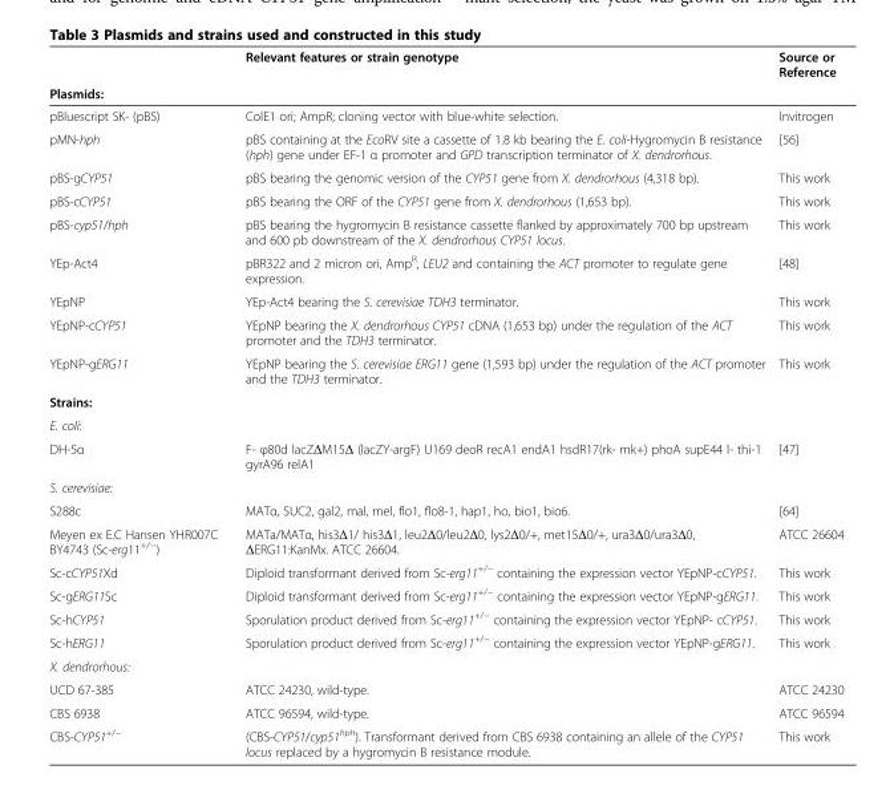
<table><thead><tr><td rowspan="2">Plasmids:</td><td rowspan="2">Relevant features or strain genotype</td><td rowspan="2">Source or Reference</td></tr><tr></tr></thead><tbody><tr><td>pBluescript SK- (pBS)</td><td>ColE1 ori; AmpR; cloning vector with blue-white selection.</td><td>Invitrogen</td></tr><tr><td>pMN-hph</td><td>pBS containing at the EcoRV site a cassette of 1.8 kb bearing the E. coli-Hygromycin B resistance (hph) gene under EF-1 α promoter and GPD transcription terminator of X. dendrorhous.</td><td>[56]</td></tr><tr><td>pBS-gCYP51</td><td>pBS bearing the genomic version of the CYP51 gene from X. dendrorhous (4,318 bp).</td><td>This work</td></tr><tr><td>pBS-cCYP51</td><td>pBS bearing the ORF of the CYP51 gene from X. dendrorhous (1,653 bp).</td><td>This work</td></tr><tr><td>pBS-cyp51/hph</td><td>pBS bearing the hygromycin B resistance cassette flanked by approximately 700 bp upstream and 600 pb downstream of the X. dendrorhous CYP51 locus.</td><td>This work</td></tr><tr><td>YEp-Act4</td><td>pBR322 and 2 micron ori, Amp<sup>R</sup>, LEU2 and containing the ACT promoter to regulate gene expression.</td><td>[48]</td></tr><tr><td>YEpNP</td><td>YEp-Act4 bearing the S. cerevisiae TDH3 terminator.</td><td>This work</td></tr><tr><td>YEpNP-cCYP51</td><td>YEpNP bearing the X. dendrorhous CYP51 cDNA (1,653 bp) under the regulation of the ACT promoter and the TDH3 terminator.</td><td>This work</td></tr><tr><td>YEpNP-gERG11</td><td>YEpNP bearing the S. cerevisiae ERG11 gene (1,593 bp) under the regulation of the ACT promoter and the TDH3 terminator.</td><td>This work</td></tr><tr><td colspan="3">Strains:</td></tr><tr><td colspan="3">E. coli:</td></tr><tr><td>DH-5α</td><td>F- φ80d lacZΔM15Δ (lacZY-argF) U169 deoR recA1 endA1 hsdR17(rk- mk+) phoA supE44 l- thi-1 gyrA96 relA1</td><td>[47]</td></tr><tr><td colspan="3">S. cerevisiae:</td></tr><tr><td>S288c</td><td>MATα, SUC2, gal2, mal, mel, flo1, flo8-1, hap1, ho, bio1, bio6.</td><td>[64]</td></tr><tr><td>Meyen ex E.C Hansen YHR007C BY4743 (Sc-erg11<sup>+/−</sup>)</td><td>MATa/MATα, his3Δ1/ his3Δ1, leu2Δ0/leu2Δ0, lys2Δ0/+, met15Δ0/+, ura3Δ0/ura3Δ0, ΔERG11:KanMx. ATCC 26604.</td><td>ATCC 26604</td></tr><tr><td>Sc-cCYP51Xd</td><td>Diploid transformant derived from Sc-erg11<sup>+/−</sup> containing the expression vector YEpNP-cCYP51.</td><td>This work</td></tr><tr><td>Sc-gERG11Sc</td><td>Diploid transformant derived from Sc-erg11<sup>+/−</sup> containing the expression vector YEpNP-gERG11.</td><td>This work</td></tr><tr><td>Sc-hCYP51</td><td>Sporulation product derived from Sc-erg11<sup>+/−</sup> containing the expression vector YEpNP- cCYP51.</td><td>This work</td></tr><tr><td>Sc-hERG11</td><td>Sporulation product derived from Sc-erg11<sup>+/−</sup> containing the expression vector YEpNP-gERG11.</td><td>This work</td></tr><tr><td colspan="3">X. dendrorhous:</td></tr><tr><td>UCD 67-385</td><td>ATCC 24230, wild-type.</td><td>ATCC 24230</td></tr><tr><td>CBS 6938</td><td>ATCC 96594, wild-type.</td><td>ATCC 96594</td></tr><tr><td>CBS-CYP51<sup>+/−</sup></td><td>(CBS-CYP51/cyp51<sup>hph</sup>). Transformant derived from CBS 6938 containing an allele of the CYP51 locus replaced by a hygromycin B resistance module.</td><td>This work</td></tr></tbody></table>